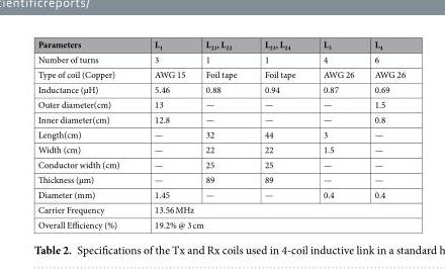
<table><thead><tr><td>Parameters</td><td>L<sub>1</sub></td><td>L<sub>21</sub>, L<sub>22</sub></td><td>L<sub>23</sub>, L<sub>24</sub></td><td>L<sub>3</sub></td><td>L<sub>4</sub></td></tr></thead><tbody><tr><td>Number of turns</td><td>3</td><td>1</td><td>1</td><td>4</td><td>6</td></tr><tr><td>Type of coil (Copper)</td><td>AWG 15</td><td>Foil tape</td><td>Foil tape</td><td>AWG 26</td><td>AWG 26</td></tr><tr><td>Inductance (µH)</td><td>5.46</td><td>0.88</td><td>0.94</td><td>0.87</td><td>0.69</td></tr><tr><td>Outer diameter(cm)</td><td>13</td><td>—</td><td>—</td><td>—</td><td>1.5</td></tr><tr><td>Inner diameter(cm)</td><td>12.8</td><td>—</td><td>—</td><td>—</td><td>0.8</td></tr><tr><td>Length(cm)</td><td>—</td><td>32</td><td>44</td><td>3</td><td>—</td></tr><tr><td>Width (cm)</td><td>—</td><td>22</td><td>22</td><td>1.5</td><td>—</td></tr><tr><td>Conductor width (cm)</td><td>—</td><td>25</td><td>25</td><td>—</td><td>—</td></tr><tr><td>Thickness (µm)</td><td>—</td><td>89</td><td>89</td><td>—</td><td>—</td></tr><tr><td>Diameter (mm)</td><td>1.45</td><td>—</td><td>—</td><td>0.4</td><td>0.4</td></tr><tr><td>Carrier Frequency</td><td colspan="5">13.56 MHz</td></tr><tr><td>Overall Efficiency (%)</td><td colspan="5">19.2% @ 3 cm</td></tr></tbody></table>